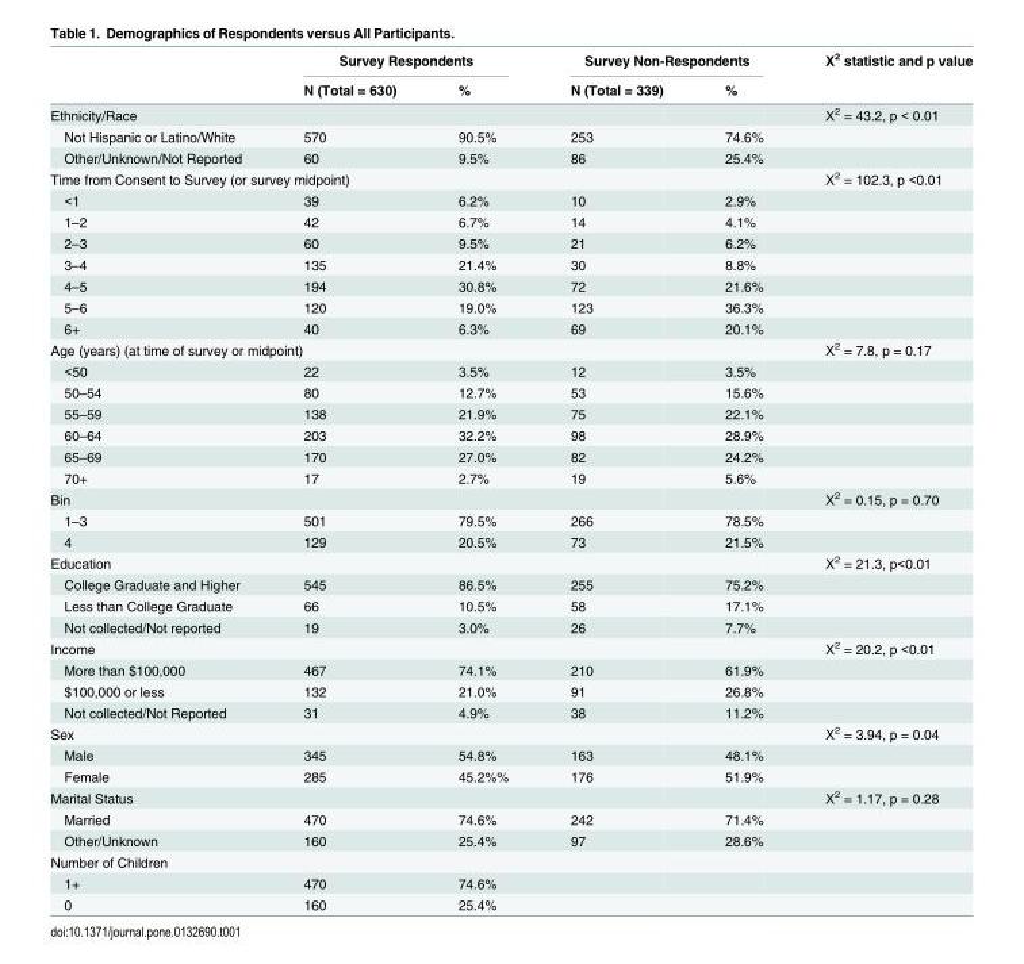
<table><thead><tr><td rowspan="2"></td><td colspan="2">Survey Respondents</td><td colspan="2">Survey Non-Respondents</td><td rowspan="2">Χ<sup>2</sup> statistic and p value</td></tr><tr><td>N (Total = 630)</td><td>%</td><td>N (Total = 339)</td><td>%</td></tr></thead><tbody><tr><td>Ethnicity/Race</td><td></td><td></td><td></td><td></td><td>Χ<sup>2</sup> = 43.2, p &lt; 0.01</td></tr><tr><td>Not Hispanic or Latino/White</td><td>570</td><td>90.5%</td><td>253</td><td>74.6%</td><td></td></tr><tr><td>Other/Unknown/Not Reported</td><td>60</td><td>9.5%</td><td>86</td><td>25.4%</td><td></td></tr><tr><td colspan="5">Time from Consent to Survey (or survey midpoint)</td><td>Χ<sup>2</sup> = 102.3, p &lt;0.01</td></tr><tr><td>&lt;1</td><td>39</td><td>6.2%</td><td>10</td><td>2.9%</td><td></td></tr><tr><td>1–2</td><td>42</td><td>6.7%</td><td>14</td><td>4.1%</td><td></td></tr><tr><td>2–3</td><td>60</td><td>9.5%</td><td>21</td><td>6.2%</td><td></td></tr><tr><td>3–4</td><td>135</td><td>21.4%</td><td>30</td><td>8.8%</td><td></td></tr><tr><td>4–5</td><td>194</td><td>30.8%</td><td>72</td><td>21.6%</td><td></td></tr><tr><td>5–6</td><td>120</td><td>19.0%</td><td>123</td><td>36.3%</td><td></td></tr><tr><td>6+</td><td>40</td><td>6.3%</td><td>69</td><td>20.1%</td><td></td></tr><tr><td colspan="3">Age (years) (at time of survey or midpoint)</td><td></td><td></td><td>Χ<sup>2</sup> = 7.8, p = 0.17</td></tr><tr><td>&lt;50</td><td>22</td><td>3.5%</td><td>12</td><td>3.5%</td><td></td></tr><tr><td>50–54</td><td>80</td><td>12.7%</td><td>53</td><td>15.6%</td><td></td></tr><tr><td>55–59</td><td>138</td><td>21.9%</td><td>75</td><td>22.1%</td><td></td></tr><tr><td>60–64</td><td>203</td><td>32.2%</td><td>98</td><td>28.9%</td><td></td></tr><tr><td>65–69</td><td>170</td><td>27.0%</td><td>82</td><td>24.2%</td><td></td></tr><tr><td>70+</td><td>17</td><td>2.7%</td><td>19</td><td>5.6%</td><td></td></tr><tr><td>Bin</td><td></td><td></td><td></td><td></td><td>Χ<sup>2</sup> = 0.15, p = 0.70</td></tr><tr><td>1–3</td><td>501</td><td>79.5%</td><td>266</td><td>78.5%</td><td></td></tr><tr><td>4</td><td>129</td><td>20.5%</td><td>73</td><td>21.5%</td><td></td></tr><tr><td>Education</td><td></td><td></td><td></td><td></td><td>Χ<sup>2</sup> = 21.3, p&lt;0.01</td></tr><tr><td>College Graduate and Higher</td><td>545</td><td>86.5%</td><td>255</td><td>75.2%</td><td></td></tr><tr><td>Less than College Graduate</td><td>66</td><td>10.5%</td><td>58</td><td>17.1%</td><td></td></tr><tr><td>Not collected/Not reported</td><td>19</td><td>3.0%</td><td>26</td><td>7.7%</td><td></td></tr><tr><td>Income</td><td></td><td></td><td></td><td></td><td>Χ<sup>2</sup> = 20.2, p &lt;0.01</td></tr><tr><td>More than $100,000</td><td>467</td><td>74.1%</td><td>210</td><td>61.9%</td><td></td></tr><tr><td>$100,000 or less</td><td>132</td><td>21.0%</td><td>91</td><td>26.8%</td><td></td></tr><tr><td>Not collected/Not Reported</td><td>31</td><td>4.9%</td><td>38</td><td>11.2%</td><td></td></tr><tr><td>Sex</td><td></td><td></td><td></td><td></td><td>Χ<sup>2</sup> = 3.94, p = 0.04</td></tr><tr><td>Male</td><td>345</td><td>54.8%</td><td>163</td><td>48.1%</td><td></td></tr><tr><td>Female</td><td>285</td><td>45.2%%</td><td>176</td><td>51.9%</td><td></td></tr><tr><td>Marital Status</td><td></td><td></td><td></td><td></td><td>Χ<sup>2</sup> = 1.17, p = 0.28</td></tr><tr><td>Married</td><td>470</td><td>74.6%</td><td>242</td><td>71.4%</td><td></td></tr><tr><td>Other/Unknown</td><td>160</td><td>25.4%</td><td>97</td><td>28.6%</td><td></td></tr><tr><td colspan="6">Number of Children</td></tr><tr><td>1+</td><td>470</td><td>74.6%</td><td></td><td></td><td></td></tr><tr><td>0</td><td>160</td><td>25.4%</td><td></td><td></td><td></td></tr></tbody></table>